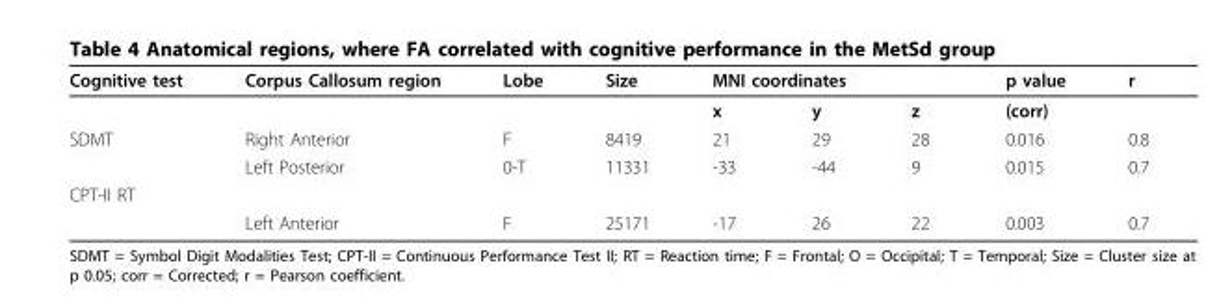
<table><thead><tr><td rowspan="2">Cognitive test</td><td rowspan="2">Corpus Callosum region</td><td rowspan="2">Lobe</td><td rowspan="2">Size</td><td colspan="3">MNI coordinates</td><td rowspan="2">p value (corr)</td><td rowspan="2">r</td></tr><tr><td>x</td><td>y</td><td>z</td></tr></thead><tbody><tr><td rowspan="2">SDMT</td><td>Right Anterior</td><td>F</td><td>8419</td><td>21</td><td>29</td><td>28</td><td>0.016</td><td>0.8</td></tr><tr><td>Left Posterior</td><td>0-T</td><td>11331</td><td>-33</td><td>-44</td><td>9</td><td>0.015</td><td>0.7</td></tr><tr><td colspan="9">CPT-II RT</td></tr><tr><td></td><td>Left Anterior</td><td>F</td><td>25171</td><td>-17</td><td>26</td><td>22</td><td>0.003</td><td>0.7</td></tr></tbody></table>